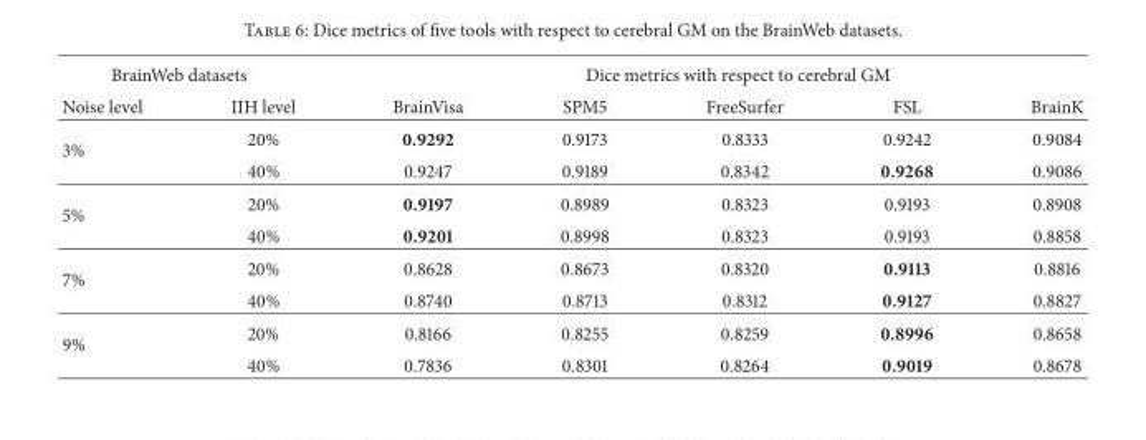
<table><thead><tr><td colspan="2">BrainWeb datasets</td><td colspan="5">Dice metrics with respect to cerebral GM</td></tr><tr><td>Noise level</td><td>IIH level</td><td>BrainVisa</td><td>SPM5</td><td>FreeSurfer</td><td>FSL</td><td>BrainK</td></tr></thead><tbody><tr><td rowspan="2">3%</td><td>20%</td><td>0.9292</td><td>0.9173</td><td>0.8333</td><td>0.9242</td><td>0.9084</td></tr><tr><td>40%</td><td>0.9247</td><td>0.9189</td><td>0.8342</td><td>0.9268</td><td>0.9086</td></tr><tr><td rowspan="2">5%</td><td>20%</td><td>0.9197</td><td>0.8989</td><td>0.8323</td><td>0.9193</td><td>0.8908</td></tr><tr><td>40%</td><td>0.9201</td><td>0.8998</td><td>0.8323</td><td>0.9193</td><td>0.8858</td></tr><tr><td rowspan="2">7%</td><td>20%</td><td>0.8628</td><td>0.8673</td><td>0.8320</td><td>0.9113</td><td>0.8816</td></tr><tr><td>40%</td><td>0.8740</td><td>0.8713</td><td>0.8312</td><td>0.9127</td><td>0.8827</td></tr><tr><td rowspan="2">9%</td><td>20%</td><td>0.8166</td><td>0.8255</td><td>0.8259</td><td>0.8996</td><td>0.8658</td></tr><tr><td>40%</td><td>0.7836</td><td>0.8301</td><td>0.8264</td><td>0.9019</td><td>0.8678</td></tr></tbody></table>